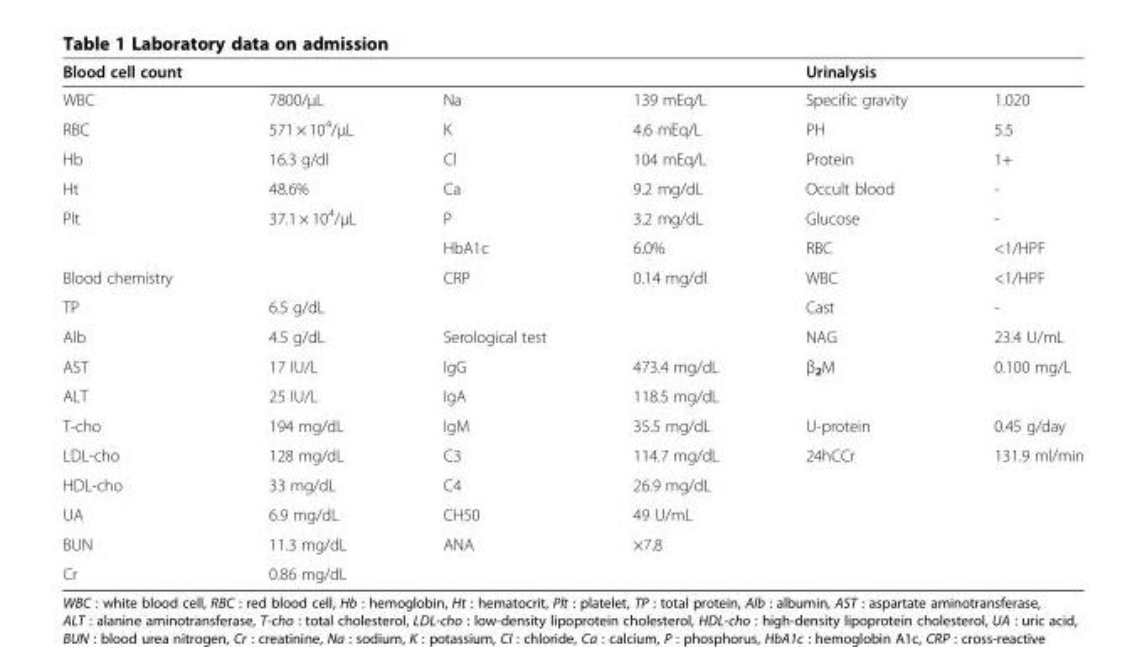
<table><thead><tr><td>Blood cell count</td><td></td><td></td><td></td><td>Urinalysis</td><td></td></tr></thead><tbody><tr><td>WBC</td><td>7800/μL</td><td>Na</td><td>139 mEq/L</td><td>Specific gravity</td><td>1.020</td></tr><tr><td>RBC</td><td>571 × 10<sup>4</sup>/μL</td><td>K</td><td>4.6 mEq/L</td><td>PH</td><td>5.5</td></tr><tr><td>Hb</td><td>16.3 g/dl</td><td>Cl</td><td>104 mEq/L</td><td>Protein</td><td>1+</td></tr><tr><td>Ht</td><td>48.6%</td><td>Ca</td><td>9.2 mg/dL</td><td>Occult blood</td><td>-</td></tr><tr><td rowspan="2">Plt</td><td>37.1 × 10<sup>4</sup>/μL</td><td>P</td><td>3.2 mg/dL</td><td>Glucose</td><td>-</td></tr><tr><td></td><td>HbA1c</td><td>6.0%</td><td>RBC</td><td>&lt;1/HPF</td></tr><tr><td>Blood chemistry</td><td></td><td>CRP</td><td>0.14 mg/dl</td><td>WBC</td><td>&lt;1/HPF</td></tr><tr><td>TP</td><td>6.5 g/dL</td><td></td><td></td><td>Cast</td><td>-</td></tr><tr><td>Alb</td><td>4.5 g/dL</td><td>Serological test</td><td></td><td>NAG</td><td>23.4 U/mL</td></tr><tr><td>AST</td><td>17 IU/L</td><td>IgG</td><td>473.4 mg/dL</td><td>β<sub>2</sub>M</td><td>0.100 mg/L</td></tr><tr><td>ALT</td><td>25 IU/L</td><td>IgA</td><td>118.5 mg/dL</td><td></td><td></td></tr><tr><td>T-cho</td><td>194 mg/dL</td><td>IgM</td><td>35.5 mg/dL</td><td>U-protein</td><td>0.45 g/day</td></tr><tr><td>LDL-cho</td><td>128 mg/dL</td><td>C3</td><td>114.7 mg/dL</td><td>24hCCr</td><td>131.9 ml/min</td></tr><tr><td>HDL-cho</td><td>33 mg/dL</td><td>C4</td><td>26.9 mg/dL</td><td></td><td></td></tr><tr><td>UA</td><td>6.9 mg/dL</td><td>CH50</td><td>49 U/mL</td><td></td><td></td></tr><tr><td>BUN</td><td>11.3 mg/dL</td><td>ANA</td><td>×7.8</td><td></td><td></td></tr><tr><td>Cr</td><td>0.86 mg/dL</td><td></td><td></td><td></td><td></td></tr></tbody></table>